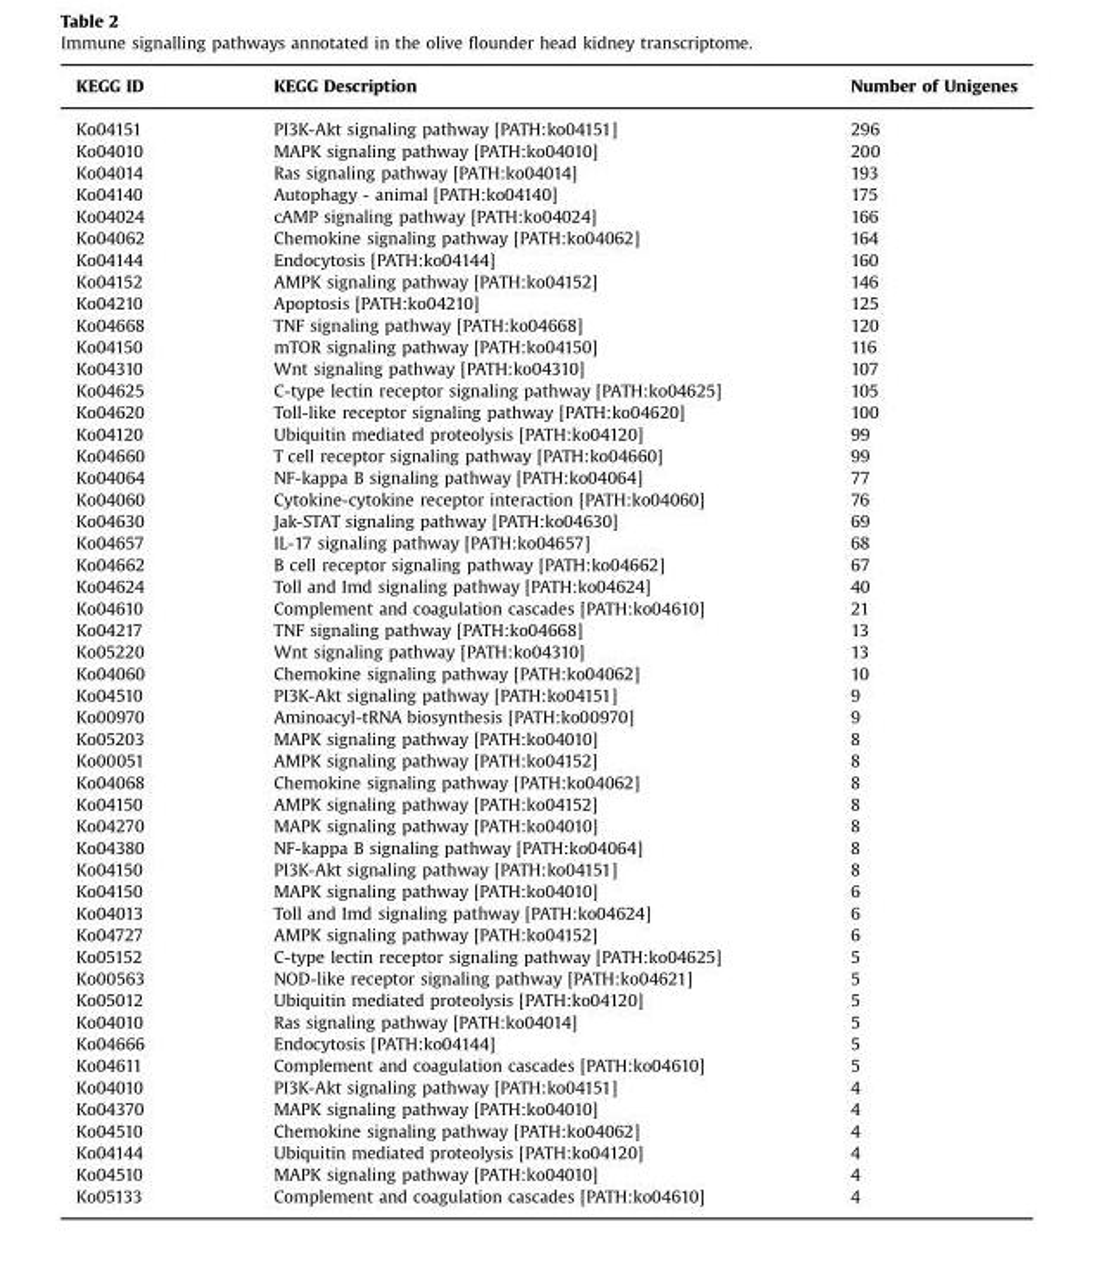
<table><thead><tr><td>KEGG ID</td><td>KEGG Description</td><td>Number of Unigenes</td></tr></thead><tbody><tr><td>Ko04151</td><td>PI3K-Akt signaling pathway [PATH:ko04151]</td><td>296</td></tr><tr><td>Ko04010</td><td>MAPK signaling pathway [PATH:ko04010]</td><td>200</td></tr><tr><td>Ko04014</td><td>Ras signaling pathway [PATH:ko04014]</td><td>193</td></tr><tr><td>Ko04140</td><td>Autophagy - animal [PATH:ko04140]</td><td>175</td></tr><tr><td>Ko04024</td><td>cAMP signaling pathway [PATH:ko04024]</td><td>166</td></tr><tr><td>Ko04062</td><td>Chemokine signaling pathway [PATH:ko04062]</td><td>164</td></tr><tr><td>Ko04144</td><td>Endocytosis [PATH:ko04144]</td><td>160</td></tr><tr><td>Ko04152</td><td>AMPK signaling pathway [PATH:ko04152]</td><td>146</td></tr><tr><td>Ko04210</td><td>Apoptosis [PATH:ko04210]</td><td>125</td></tr><tr><td>Ko04668</td><td>TNF signaling pathway [PATH:ko04668]</td><td>120</td></tr><tr><td>Ko04150</td><td>mTOR signaling pathway [PATH:ko04150]</td><td>116</td></tr><tr><td>Ko04310</td><td>Wnt signaling pathway [PATH:ko04310]</td><td>107</td></tr><tr><td>Ko04625</td><td>C-type lectin receptor signaling pathway [PATH:ko04625]</td><td>105</td></tr><tr><td>Ko04620</td><td>Toll-like receptor signaling pathway [PATH:ko04620]</td><td>100</td></tr><tr><td>Ko04120</td><td>Ubiquitin mediated proteolysis [PATH:ko04120]</td><td>99</td></tr><tr><td>Ko04660</td><td>T cell receptor signaling pathway [PATH:ko04660]</td><td>99</td></tr><tr><td>Ko04064</td><td>NF-kappa B signaling pathway [PATH:ko04064]</td><td>77</td></tr><tr><td>Ko04060</td><td>Cytokine-cytokine receptor interaction [PATH:ko04060]</td><td>76</td></tr><tr><td>Ko04630</td><td>Jak-STAT signaling pathway [PATH:ko04630]</td><td>69</td></tr><tr><td>Ko04657</td><td>IL-17 signaling pathway [PATH:ko04657]</td><td>68</td></tr><tr><td>Ko04662</td><td>B cell receptor signaling pathway [PATH:ko04662]</td><td>67</td></tr><tr><td>Ko04624</td><td>Toll and Imd signaling pathway [PATH:ko04624]</td><td>40</td></tr><tr><td>Ko04610</td><td>Complement and coagulation cascades [PATH:ko04610]</td><td>21</td></tr><tr><td>Ko04217</td><td>TNF signaling pathway [PATH:ko04668]</td><td>13</td></tr><tr><td>Ko05220</td><td>Wnt signaling pathway [PATH:ko04310]</td><td>13</td></tr><tr><td>Ko04060</td><td>Chemokine signaling pathway [PATH:ko04062]</td><td>10</td></tr><tr><td>Ko04510</td><td>PI3K-Akt signaling pathway [PATH:ko04151]</td><td>9</td></tr><tr><td>Ko00970</td><td>Aminoacyl-tRNA biosynthesis [PATH:ko00970]</td><td>9</td></tr><tr><td>Ko05203</td><td>MAPK signaling pathway [PATH:ko04010]</td><td>8</td></tr><tr><td>Ko00051</td><td>AMPK signaling pathway [PATH:ko04152]</td><td>8</td></tr><tr><td>Ko04068</td><td>Chemokine signaling pathway [PATH:ko04062]</td><td>8</td></tr><tr><td>Ko04150</td><td>AMPK signaling pathway [PATH:ko04152]</td><td>8</td></tr><tr><td>Ko04270</td><td>MAPK signaling pathway [PATH:ko04010]</td><td>8</td></tr><tr><td>Ko04380</td><td>NF-kappa B signaling pathway [PATH:ko04064]</td><td>8</td></tr><tr><td>Ko04150</td><td>PI3K-Akt signaling pathway [PATH:ko04151]</td><td>8</td></tr><tr><td>Ko04150</td><td>MAPK signaling pathway [PATH:ko04010]</td><td>6</td></tr><tr><td>Ko04013</td><td>Toll and Imd signaling pathway [PATH:ko04624]</td><td>6</td></tr><tr><td>Ko04727</td><td>AMPK signaling pathway [PATH:ko04152]</td><td>6</td></tr><tr><td>Ko05152</td><td>C-type lectin receptor signaling pathway [PATH:ko04625]</td><td>5</td></tr><tr><td>Ko00563</td><td>NOD-like receptor signaling pathway [PATH:ko04621]</td><td>5</td></tr><tr><td>Ko05012</td><td>Ubiquitin mediated proteolysis [PATH:ko04120]</td><td>5</td></tr><tr><td>Ko04010</td><td>Ras signaling pathway [PATH:ko04014]</td><td>5</td></tr><tr><td>Ko04666</td><td>Endocytosis [PATH:ko04144]</td><td>5</td></tr><tr><td>Ko04611</td><td>Complement and coagulation cascades [PATH:ko04610]</td><td>5</td></tr><tr><td>Ko04010</td><td>PI3K-Akt signaling pathway [PATH:ko04151]</td><td>4</td></tr><tr><td>Ko04370</td><td>MAPK signaling pathway [PATH:ko04010]</td><td>4</td></tr><tr><td>Ko04510</td><td>Chemokine signaling pathway [PATH:ko04062]</td><td>4</td></tr><tr><td>Ko04144</td><td>Ubiquitin mediated proteolysis [PATH:ko04120]</td><td>4</td></tr><tr><td>Ko04510</td><td>MAPK signaling pathway [PATH:ko04010]</td><td>4</td></tr><tr><td>Ko05133</td><td>Complement and coagulation cascades [PATH:ko04610]</td><td>4</td></tr></tbody></table>